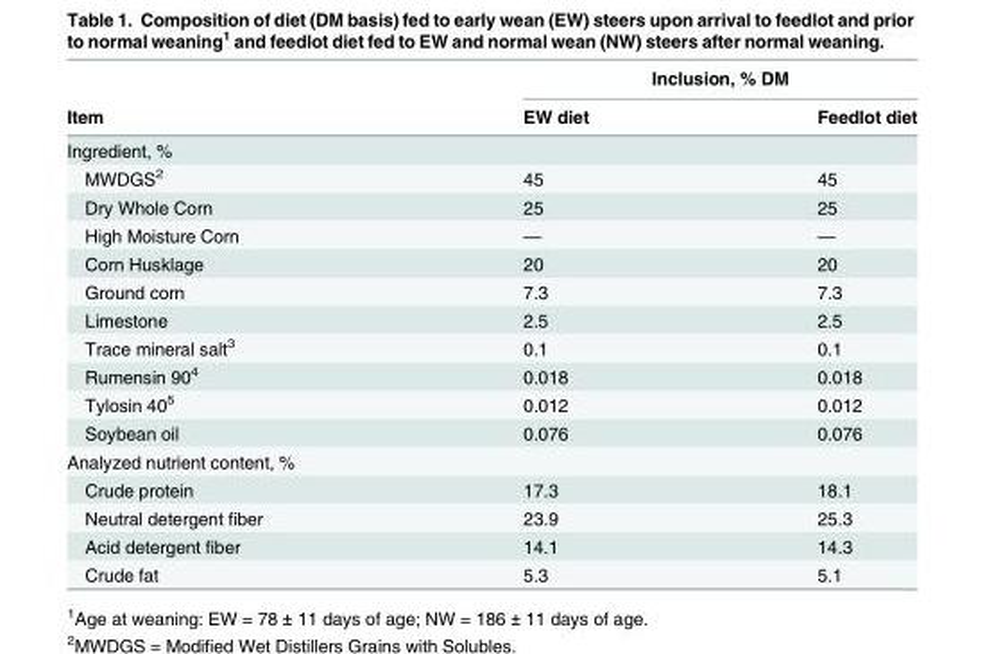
<table><thead><tr><td rowspan="2">Item</td><td colspan="2">Inclusion, % DM</td></tr><tr><td>EW diet</td><td>Feedlot diet</td></tr></thead><tbody><tr><td colspan="3">Ingredient, %</td></tr><tr><td>MWDGS<sup>2</sup></td><td>45</td><td>45</td></tr><tr><td>Dry Whole Corn</td><td>25</td><td>25</td></tr><tr><td>High Moisture Corn</td><td>—</td><td>—</td></tr><tr><td>Corn Husklage</td><td>20</td><td>20</td></tr><tr><td>Ground corn</td><td>7.3</td><td>7.3</td></tr><tr><td>Limestone</td><td>2.5</td><td>2.5</td></tr><tr><td>Trace mineral salt<sup>3</sup></td><td>0.1</td><td>0.1</td></tr><tr><td>Rumensin 90<sup>4</sup></td><td>0.018</td><td>0.018</td></tr><tr><td>Tylosin 40<sup>5</sup></td><td>0.012</td><td>0.012</td></tr><tr><td>Soybean oil</td><td>0.076</td><td>0.076</td></tr><tr><td colspan="3">Analyzed nutrient content, %</td></tr><tr><td>Crude protein</td><td>17.3</td><td>18.1</td></tr><tr><td>Neutral detergent fiber</td><td>23.9</td><td>25.3</td></tr><tr><td>Acid detergent fiber</td><td>14.1</td><td>14.3</td></tr><tr><td>Crude fat</td><td>5.3</td><td>5.1</td></tr></tbody></table>